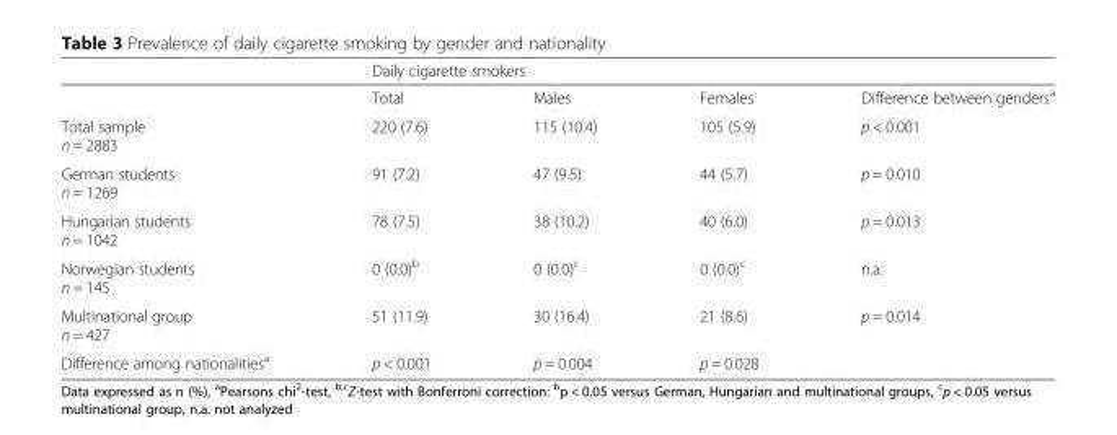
<table><thead><tr><td rowspan="2"></td><td colspan="3">Daily cigarette smokers</td><td rowspan="2">Difference between genders<sup>a</sup></td></tr><tr><td>Total</td><td>Males</td><td>Females</td></tr></thead><tbody><tr><td>Total sample n = 2883</td><td>220 (7.6)</td><td>115 (10.4)</td><td>105 (5.9)</td><td>p &lt; 0.001</td></tr><tr><td>German students n = 1269</td><td>91 (7.2)</td><td>47 (9.5)</td><td>44 (5.7)</td><td>p = 0.010</td></tr><tr><td>Hungarian students n = 1042</td><td>78 (7.5)</td><td>38 (10.2)</td><td>40 (6.0)</td><td>p = 0.013</td></tr><tr><td>Norwegian students n = 145</td><td>0 (0.0)<sup>b</sup></td><td>0 (0.0)<sup>c</sup></td><td>0 (0.0)<sup>c</sup></td><td>n.a.</td></tr><tr><td>Multinational group n = 427</td><td>51 (11.9)</td><td>30 (16.4)</td><td>21 (8.6)</td><td>p = 0.014</td></tr><tr><td>Difference among nationalities<sup>a</sup></td><td>p &lt; 0.001</td><td>p = 0.004</td><td>p = 0.028</td><td></td></tr></tbody></table>